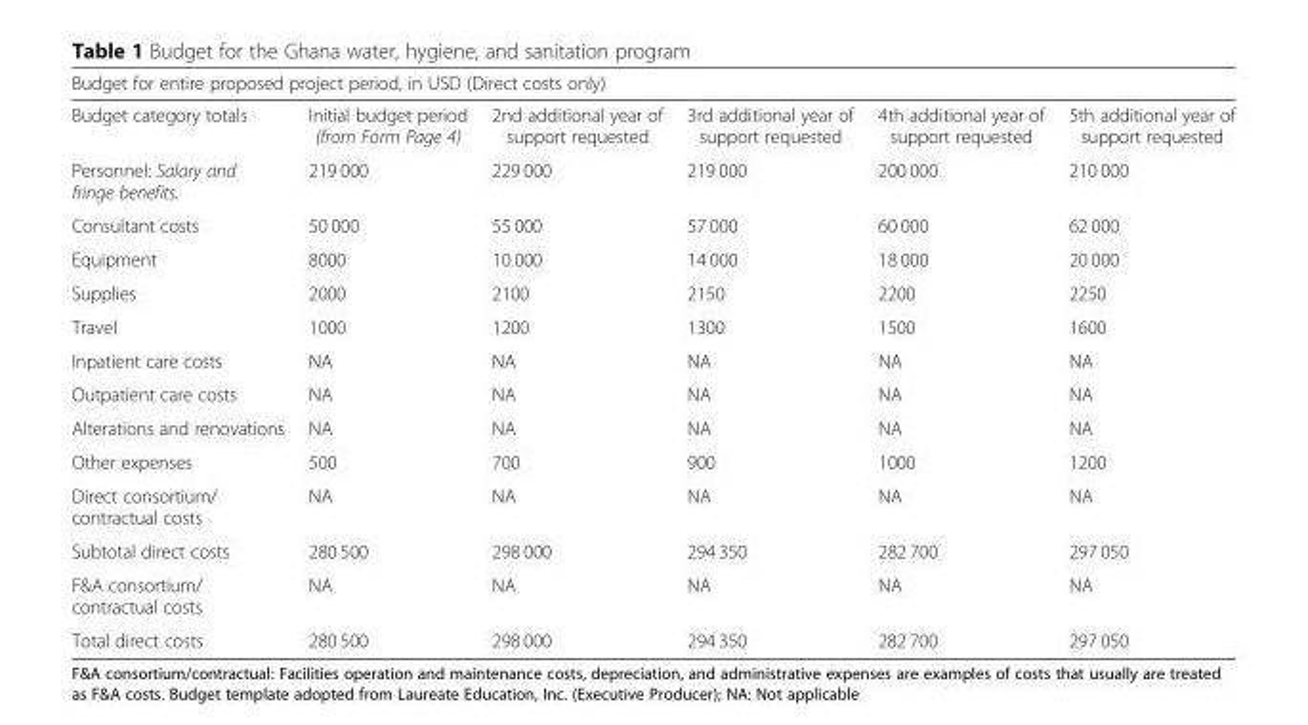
<table><thead><tr><td colspan="6">Budget for entire proposed project period, in USD (Direct costs only)</td></tr><tr><td>Budget category totals</td><td>Initial budget period (from Form Page 4)</td><td>2nd additional year of support requested</td><td>3rd additional year of support requested</td><td>4th additional year of support requested</td><td>5th additional year of support requested</td></tr></thead><tbody><tr><td>Personnel: Salary and fringe benefits.</td><td>219 000</td><td>229 000</td><td>219 000</td><td>200 000</td><td>210 000</td></tr><tr><td>Consultant costs</td><td>50 000</td><td>55 000</td><td>57 000</td><td>60 000</td><td>62 000</td></tr><tr><td>Equipment</td><td>8000</td><td>10 000</td><td>14 000</td><td>18 000</td><td>20 000</td></tr><tr><td>Supplies</td><td>2000</td><td>2100</td><td>2150</td><td>2200</td><td>2250</td></tr><tr><td>Travel</td><td>1000</td><td>1200</td><td>1300</td><td>1500</td><td>1600</td></tr><tr><td>Inpatient care costs</td><td>NA</td><td>NA</td><td>NA</td><td>NA</td><td>NA</td></tr><tr><td>Outpatient care costs</td><td>NA</td><td>NA</td><td>NA</td><td>NA</td><td>NA</td></tr><tr><td>Alterations and renovations</td><td>NA</td><td>NA</td><td>NA</td><td>NA</td><td>NA</td></tr><tr><td>Other expenses</td><td>500</td><td>700</td><td>900</td><td>1000</td><td>1200</td></tr><tr><td>Direct consortium/ contractual costs</td><td>NA</td><td>NA</td><td>NA</td><td>NA</td><td>NA</td></tr><tr><td>Subtotal direct costs</td><td>280 500</td><td>298 000</td><td>294 350</td><td>282 700</td><td>297 050</td></tr><tr><td>F&amp;A consortium/ contractual costs</td><td>NA</td><td>NA</td><td>NA</td><td>NA</td><td>NA</td></tr><tr><td>Total direct costs</td><td>280 500</td><td>298 000</td><td>294 350</td><td>282 700</td><td>297 050</td></tr></tbody></table>